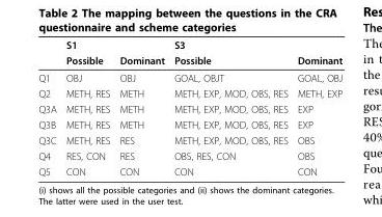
<table><thead><tr><td rowspan="2"></td><td rowspan="2">S1 Possible</td><td rowspan="2">Dominant</td><td rowspan="2">S3 Possible</td><td rowspan="2">Dominant</td></tr><tr></tr></thead><tbody><tr><td>Q1</td><td>OBJ</td><td>OBJ</td><td>GOAL, OBJT</td><td>GOAL, OBJ</td></tr><tr><td>Q2</td><td>METH, RES</td><td>METH</td><td>METH, EXP, MOD, OBS, RES</td><td>METH, EXP</td></tr><tr><td>Q3A</td><td>METH, RES</td><td>METH</td><td>METH, EXP, MOD, OBS, RES</td><td>EXP</td></tr><tr><td>Q3B</td><td>METH, RES</td><td>METH</td><td>METH, EXP, MOD, OBS, RES</td><td>EXP</td></tr><tr><td>Q3C</td><td>METH, RES</td><td>RES</td><td>METH, EXP, MOD, OBS, RES</td><td>OBS</td></tr><tr><td>Q4</td><td>RES, CON</td><td>RES</td><td>OBS, RES, CON</td><td>OBS</td></tr><tr><td>Q5</td><td>CON</td><td>CON</td><td>CON</td><td>CON</td></tr></tbody></table>